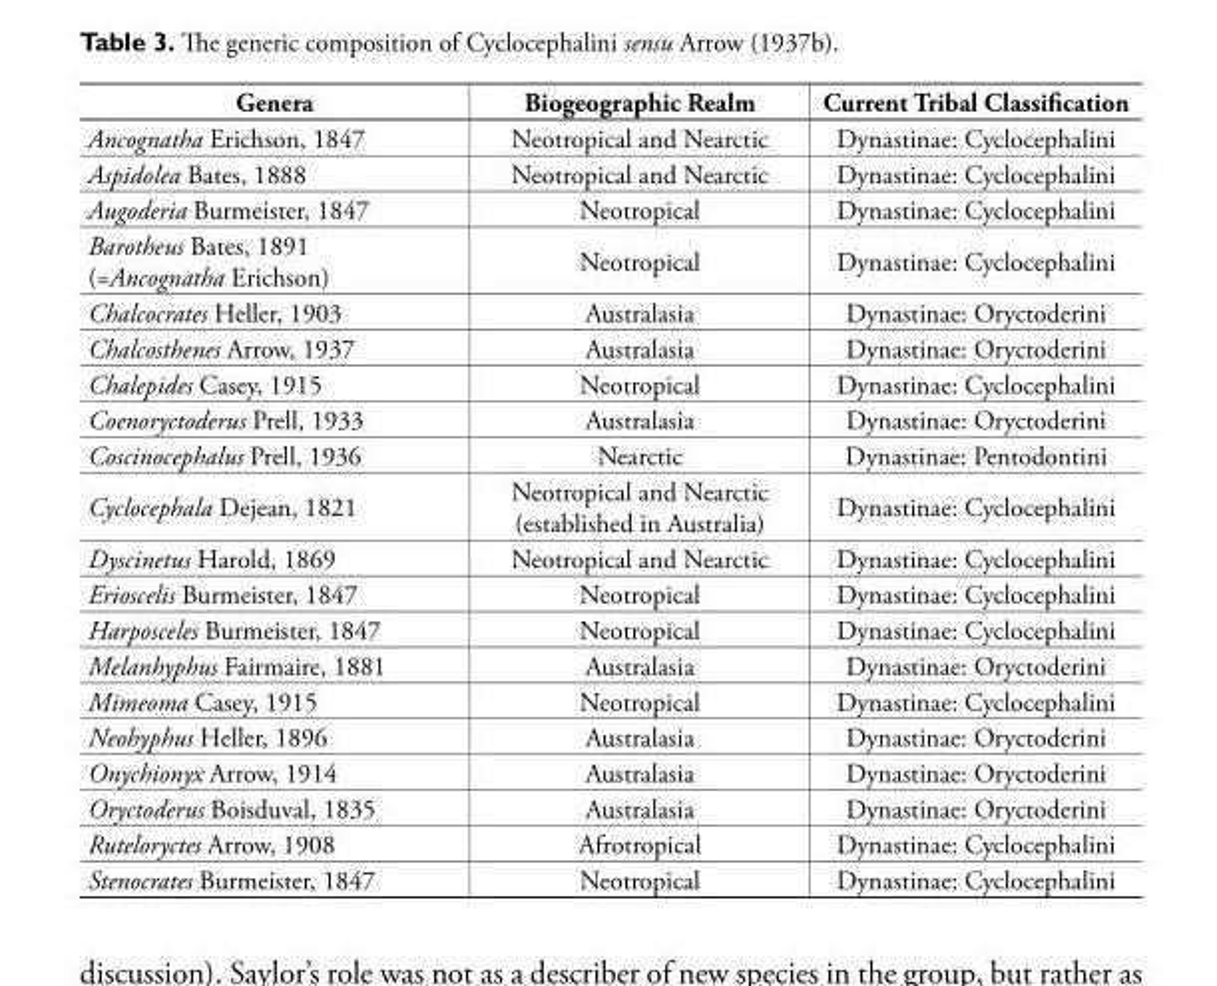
<table><thead><tr><td>Genera</td><td>Biogeographic Realm</td><td>Current Tribal Classification</td></tr></thead><tbody><tr><td>Ancognatha Erichson, 1847</td><td>Neotropical and Nearctic</td><td>Dynastinae: Cyclocephalini</td></tr><tr><td>Aspidolea Bates, 1888</td><td>Neotropical and Nearctic</td><td>Dynastinae: Cyclocephalini</td></tr><tr><td>Augoderia Burmeister, 1847</td><td>Neotropical</td><td>Dynastinae: Cyclocephalini</td></tr><tr><td>Barotheus Bates, 1891 (=Ancognatha Erichson)</td><td>Neotropical</td><td>Dynastinae: Cyclocephalini</td></tr><tr><td>Chalcocrates Heller, 1903</td><td>Australasia</td><td>Dynastinae: Oryctoderini</td></tr><tr><td>Chalcosthenes Arrow, 1937</td><td>Australasia</td><td>Dynastinae: Oryctoderini</td></tr><tr><td>Chalepides Casey, 1915</td><td>Neotropical</td><td>Dynastinae: Cyclocephalini</td></tr><tr><td>Coenoryctoderus Prell, 1933</td><td>Australasia</td><td>Dynastinae: Oryctoderini</td></tr><tr><td>Coscinocephalus Prell, 1936</td><td>Nearctic</td><td>Dynastinae: Pentodontini</td></tr><tr><td>Cyclocephala Dejean, 1821</td><td>Neotropical and Nearctic (established in Australia)</td><td>Dynastinae: Cyclocephalini</td></tr><tr><td>Dyscinetus Harold, 1869</td><td>Neotropical and Nearctic</td><td>Dynastinae: Cyclocephalini</td></tr><tr><td>Erioscelis Burmeister, 1847</td><td>Neotropical</td><td>Dynastinae: Cyclocephalini</td></tr><tr><td>Harposceles Burmeister, 1847</td><td>Neotropical</td><td>Dynastinae: Cyclocephalini</td></tr><tr><td>Melanhyphus Fairmaire, 1881</td><td>Australasia</td><td>Dynastinae: Oryctoderini</td></tr><tr><td>Mimeoma Casey, 1915</td><td>Neotropical</td><td>Dynastinae: Cyclocephalini</td></tr><tr><td>Neohyphus Heller, 1896</td><td>Australasia</td><td>Dynastinae: Oryctoderini</td></tr><tr><td>Onychionyx Arrow, 1914</td><td>Australasia</td><td>Dynastinae: Oryctoderini</td></tr><tr><td>Oryctoderus Boisduval, 1835</td><td>Australasia</td><td>Dynastinae: Oryctoderini</td></tr><tr><td>Ruteloryctes Arrow, 1908</td><td>Afrotropical</td><td>Dynastinae: Cyclocephalini</td></tr><tr><td>Stenocrates Burmeister, 1847</td><td>Neotropical</td><td>Dynastinae: Cyclocephalini</td></tr></tbody></table>